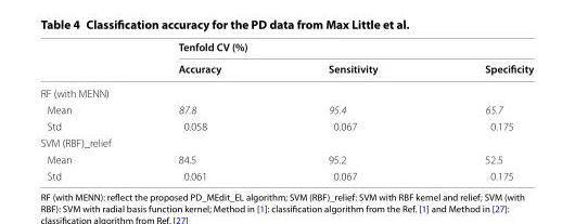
<table><thead><tr><td rowspan="2"></td><td colspan="3">Tenfold CV (%)</td></tr><tr><td>Accuracy</td><td>Sensitivity</td><td>Specificity</td></tr></thead><tbody><tr><td colspan="4">RF (with MENN)</td></tr><tr><td>Mean</td><td>87.8</td><td>95.4</td><td>65.7</td></tr><tr><td>Std</td><td>0.058</td><td>0.067</td><td>0.175</td></tr><tr><td colspan="4">SVM (RBF)_relief</td></tr><tr><td>Mean</td><td>84.5</td><td>95.2</td><td>52.5</td></tr><tr><td>Std</td><td>0.061</td><td>0.067</td><td>0.175</td></tr></tbody></table>